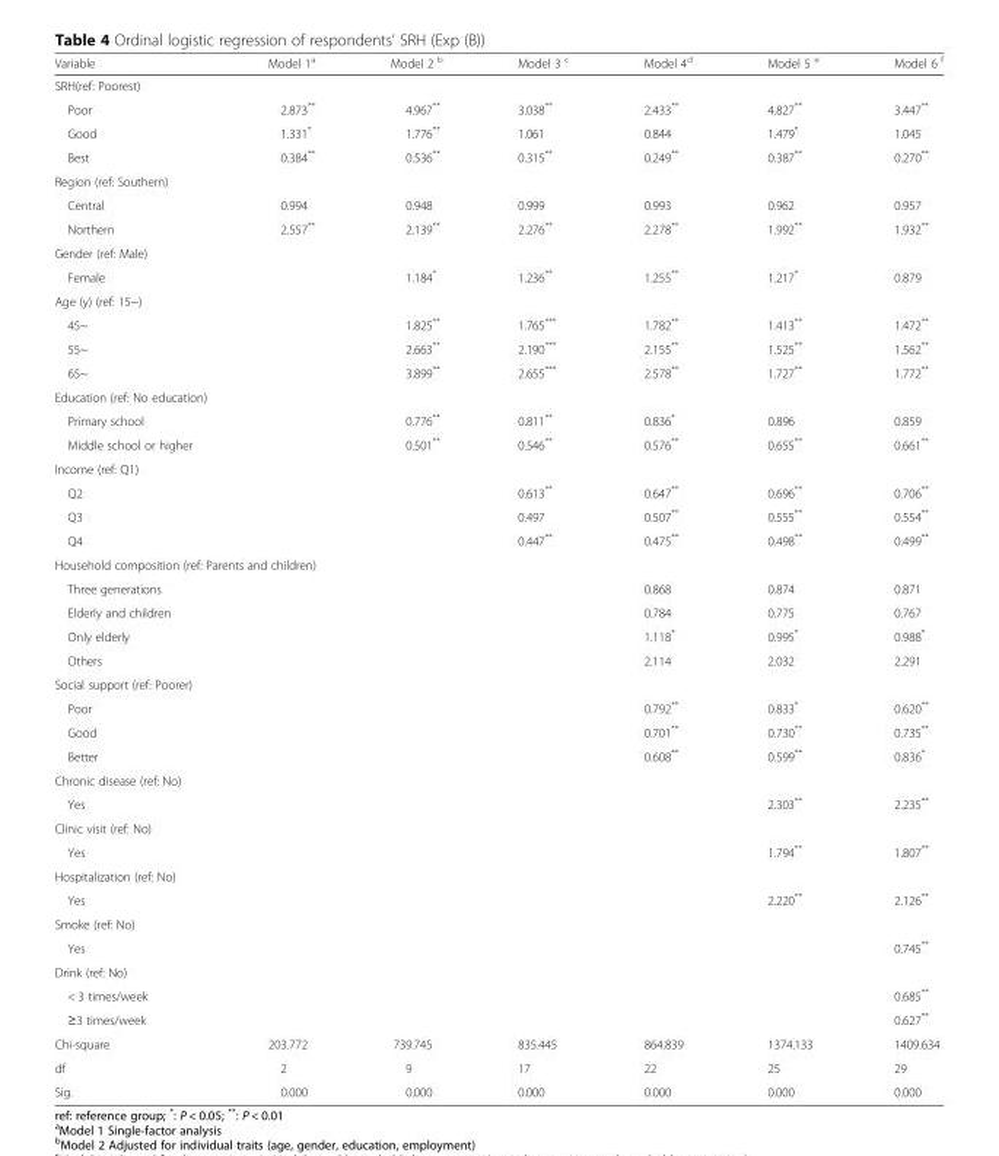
<table><thead><tr><td>Variable</td><td>Model 1<sup>a</sup></td><td>Model 2 <sup>b</sup></td><td>Model 3 <sup>c</sup></td><td>Model 4<sup>d</sup></td><td>Model 5 <sup>e</sup></td><td>Model 6 <sup>f</sup></td></tr></thead><tbody><tr><td colspan="7">SRH(ref: Poorest)</td></tr><tr><td>Poor</td><td>2.873**</td><td>4.967**</td><td>3.038**</td><td>2.433**</td><td>4.827**</td><td>3.447**</td></tr><tr><td>Good</td><td>1.331*</td><td>1.776**</td><td>1.061</td><td>0.844</td><td>1.479*</td><td>1.045</td></tr><tr><td>Best</td><td>0.384**</td><td>0.536**</td><td>0.315**</td><td>0.249**</td><td>0.387**</td><td>0.270**</td></tr><tr><td colspan="7">Region (ref: Southern)</td></tr><tr><td>Central</td><td>0.994</td><td>0.948</td><td>0.999</td><td>0.993</td><td>0.962</td><td>0.957</td></tr><tr><td>Northern</td><td>2.557**</td><td>2.139**</td><td>2.276**</td><td>2.278**</td><td>1.992**</td><td>1.932**</td></tr><tr><td colspan="7">Gender (ref: Male)</td></tr><tr><td>Female</td><td></td><td>1.184*</td><td>1.236**</td><td>1.255**</td><td>1.217*</td><td>0.879</td></tr><tr><td colspan="7">Age (y) (ref: 15~)</td></tr><tr><td>45~</td><td></td><td>1.825**</td><td>1.765***</td><td>1.782**</td><td>1.413**</td><td>1.472**</td></tr><tr><td>55~</td><td></td><td>2.663**</td><td>2.190***</td><td>2.155**</td><td>1.525**</td><td>1.562**</td></tr><tr><td>65~</td><td></td><td>3.899**</td><td>2.655***</td><td>2.578**</td><td>1.727**</td><td>1.772**</td></tr><tr><td colspan="7">Education (ref: No education)</td></tr><tr><td>Primary school</td><td></td><td>0.776**</td><td>0.811**</td><td>0.836*</td><td>0.896</td><td>0.859</td></tr><tr><td>Middle school or higher</td><td></td><td>0.501**</td><td>0.546**</td><td>0.576**</td><td>0.655**</td><td>0.661**</td></tr><tr><td colspan="7">Income (ref: Q1)</td></tr><tr><td>Q2</td><td></td><td></td><td>0.613**</td><td>0.647**</td><td>0.696**</td><td>0.706**</td></tr><tr><td>Q3</td><td></td><td></td><td>0.497</td><td>0.507**</td><td>0.555**</td><td>0.554**</td></tr><tr><td>Q4</td><td></td><td></td><td>0.447**</td><td>0.475**</td><td>0.498**</td><td>0.499**</td></tr><tr><td colspan="7">Household composition (ref: Parents and children)</td></tr><tr><td>Three generations</td><td></td><td></td><td></td><td>0.868</td><td>0.874</td><td>0.871</td></tr><tr><td>Elderly and children</td><td></td><td></td><td></td><td>0.784</td><td>0.775</td><td>0.767</td></tr><tr><td>Only elderly</td><td></td><td></td><td></td><td>1.118*</td><td>0.995*</td><td>0.988*</td></tr><tr><td>Others</td><td></td><td></td><td></td><td>2.114</td><td>2.032</td><td>2.291</td></tr><tr><td colspan="7">Social support (ref: Poorer)</td></tr><tr><td>Poor</td><td></td><td></td><td></td><td>0.792**</td><td>0.833*</td><td>0.620**</td></tr><tr><td>Good</td><td></td><td></td><td></td><td>0.701**</td><td>0.730**</td><td>0.735**</td></tr><tr><td>Better</td><td></td><td></td><td></td><td>0.608**</td><td>0.599**</td><td>0.836*</td></tr><tr><td colspan="7">Chronic disease (ref: No)</td></tr><tr><td>Yes</td><td></td><td></td><td></td><td></td><td>2.303**</td><td>2.235**</td></tr><tr><td colspan="7">Clinic visit (ref: No)</td></tr><tr><td>Yes</td><td></td><td></td><td></td><td></td><td>1.794**</td><td>1.807**</td></tr><tr><td colspan="7">Hospitalization (ref: No)</td></tr><tr><td>Yes</td><td></td><td></td><td></td><td></td><td>2.220**</td><td>2.126**</td></tr><tr><td colspan="7">Smoke (ref: No)</td></tr><tr><td>Yes</td><td></td><td></td><td></td><td></td><td></td><td>0.745**</td></tr><tr><td colspan="7">Drink (ref: No)</td></tr><tr><td>&lt; 3 times/week</td><td></td><td></td><td></td><td></td><td></td><td>0.685**</td></tr><tr><td>≥3 times/week</td><td></td><td></td><td></td><td></td><td></td><td>0.627**</td></tr><tr><td>Chi-square</td><td>203.772</td><td>739.745</td><td>835.445</td><td>864.839</td><td>1374.133</td><td>1409.634</td></tr><tr><td>df</td><td>2</td><td>9</td><td>17</td><td>22</td><td>25</td><td>29</td></tr><tr><td>Sig.</td><td>0.000</td><td>0.000</td><td>0.000</td><td>0.000</td><td>0.000</td><td>0.000</td></tr></tbody></table>